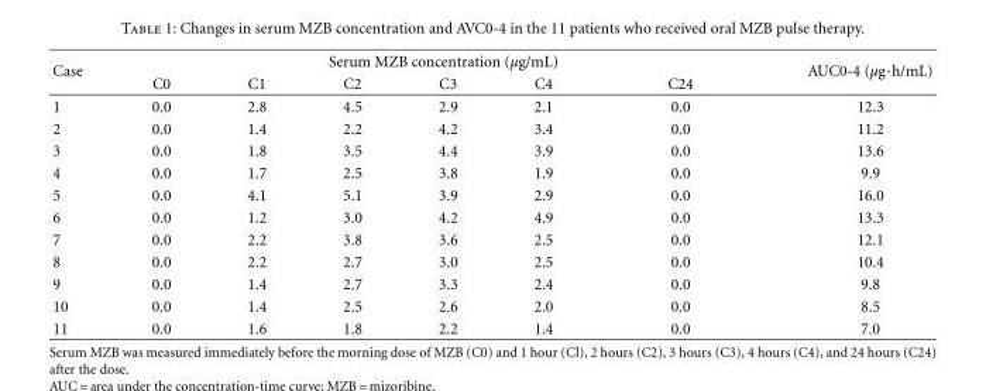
<table><thead><tr><td rowspan="2">Case</td><td colspan="6">Serum MZB concentration (μg/mL)</td><td rowspan="2">AUC0-4 (μg·h/mL)</td></tr><tr><td>C0</td><td>C1</td><td>C2</td><td>C3</td><td>C4</td><td>C24</td></tr></thead><tbody><tr><td>1</td><td>0.0</td><td>2.8</td><td>4.5</td><td>2.9</td><td>2.1</td><td>0.0</td><td>12.3</td></tr><tr><td>2</td><td>0.0</td><td>1.4</td><td>2.2</td><td>4.2</td><td>3.4</td><td>0.0</td><td>11.2</td></tr><tr><td>3</td><td>0.0</td><td>1.8</td><td>3.5</td><td>4.4</td><td>3.9</td><td>0.0</td><td>13.6</td></tr><tr><td>4</td><td>0.0</td><td>1.7</td><td>2.5</td><td>3.8</td><td>1.9</td><td>0.0</td><td>9.9</td></tr><tr><td>5</td><td>0.0</td><td>4.1</td><td>5.1</td><td>3.9</td><td>2.9</td><td>0.0</td><td>16.0</td></tr><tr><td>6</td><td>0.0</td><td>1.2</td><td>3.0</td><td>4.2</td><td>4.9</td><td>0.0</td><td>13.3</td></tr><tr><td>7</td><td>0.0</td><td>2.2</td><td>3.8</td><td>3.6</td><td>2.5</td><td>0.0</td><td>12.1</td></tr><tr><td>8</td><td>0.0</td><td>2.2</td><td>2.7</td><td>3.0</td><td>2.5</td><td>0.0</td><td>10.4</td></tr><tr><td>9</td><td>0.0</td><td>1.4</td><td>2.7</td><td>3.3</td><td>2.4</td><td>0.0</td><td>9.8</td></tr><tr><td>10</td><td>0.0</td><td>1.4</td><td>2.5</td><td>2.6</td><td>2.0</td><td>0.0</td><td>8.5</td></tr><tr><td>11</td><td>0.0</td><td>1.6</td><td>1.8</td><td>2.2</td><td>1.4</td><td>0.0</td><td>7.0</td></tr></tbody></table>